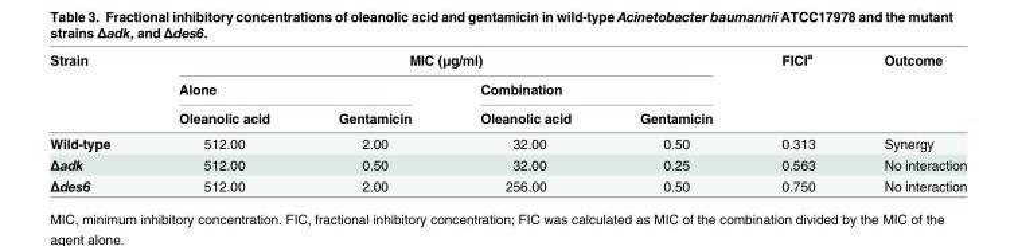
<table><thead><tr><td rowspan="3">Strain</td><td colspan="4">MIC (μg/ml)</td><td rowspan="3">FICI<sup>a</sup></td><td rowspan="3">Outcome</td></tr><tr><td colspan="2">Alone</td><td colspan="2">Combination</td></tr><tr><td>Oleanolic acid</td><td>Gentamicin</td><td>Oleanolic acid</td><td>Gentamicin</td></tr></thead><tbody><tr><td>Wild-type</td><td>512.00</td><td>2.00</td><td>32.00</td><td>0.50</td><td>0.313</td><td>Synergy</td></tr><tr><td>Δadk</td><td>512.00</td><td>0.50</td><td>32.00</td><td>0.25</td><td>0.563</td><td>No interaction</td></tr><tr><td>Δdes6</td><td>512.00</td><td>2.00</td><td>256.00</td><td>0.50</td><td>0.750</td><td>No interaction</td></tr></tbody></table>